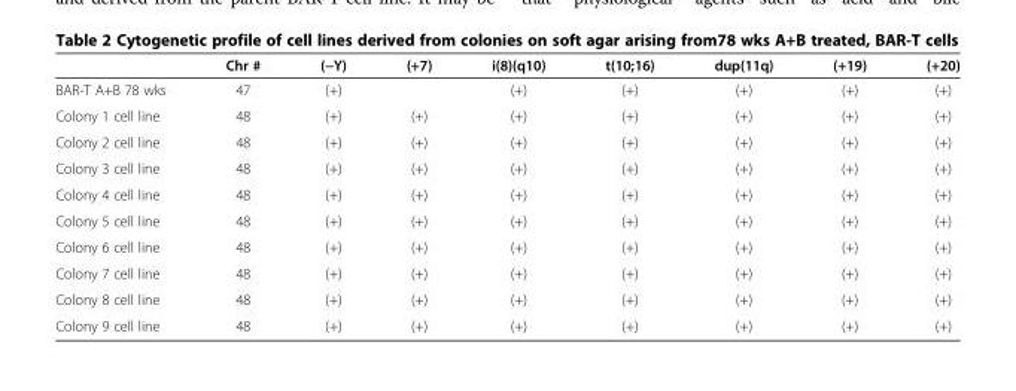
<table><thead><tr><td></td><td>Chr #</td><td>(−Y)</td><td>(+7)</td><td>i(8)(q10)</td><td>t(10;16)</td><td>dup(11q)</td><td>(+19)</td><td>(+20)</td></tr></thead><tbody><tr><td>BAR-T A+B 78 wks</td><td>47</td><td>(+)</td><td></td><td>(+)</td><td>(+)</td><td>(+)</td><td>(+)</td><td>(+)</td></tr><tr><td>Colony 1 cell line</td><td>48</td><td>(+)</td><td>(+)</td><td>(+)</td><td>(+)</td><td>(+)</td><td>(+)</td><td>(+)</td></tr><tr><td>Colony 2 cell line</td><td>48</td><td>(+)</td><td>(+)</td><td>(+)</td><td>(+)</td><td>(+)</td><td>(+)</td><td>(+)</td></tr><tr><td>Colony 3 cell line</td><td>48</td><td>(+)</td><td>(+)</td><td>(+)</td><td>(+)</td><td>(+)</td><td>(+)</td><td>(+)</td></tr><tr><td>Colony 4 cell line</td><td>48</td><td>(+)</td><td>(+)</td><td>(+)</td><td>(+)</td><td>(+)</td><td>(+)</td><td>(+)</td></tr><tr><td>Colony 5 cell line</td><td>48</td><td>(+)</td><td>(+)</td><td>(+)</td><td>(+)</td><td>(+)</td><td>(+)</td><td>(+)</td></tr><tr><td>Colony 6 cell line</td><td>48</td><td>(+)</td><td>(+)</td><td>(+)</td><td>(+)</td><td>(+)</td><td>(+)</td><td>(+)</td></tr><tr><td>Colony 7 cell line</td><td>48</td><td>(+)</td><td>(+)</td><td>(+)</td><td>(+)</td><td>(+)</td><td>(+)</td><td>(+)</td></tr><tr><td>Colony 8 cell line</td><td>48</td><td>(+)</td><td>(+)</td><td>(+)</td><td>(+)</td><td>(+)</td><td>(+)</td><td>(+)</td></tr><tr><td>Colony 9 cell line</td><td>48</td><td>(+)</td><td>(+)</td><td>(+)</td><td>(+)</td><td>(+)</td><td>(+)</td><td>(+)</td></tr></tbody></table>